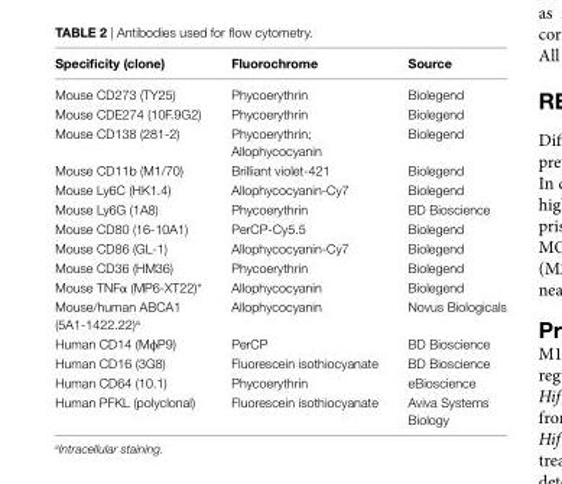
<table><thead><tr><td>specificity (clone)</td><td>Fluorochrome</td><td>source</td></tr></thead><tbody><tr><td>Mouse CD273 (TY25)</td><td>Phycoerythrin</td><td>Biolegend</td></tr><tr><td>Mouse CDE274 (10F.9G2)</td><td>Phycoerythrin</td><td>Biolegend</td></tr><tr><td>Mouse CD138 (281-2)</td><td>Phycoerythrin; Allophycocyanin</td><td>Biolegend</td></tr><tr><td>Mouse CD11b (M1/70)</td><td>Brilliant violet-421</td><td>Biolegend</td></tr><tr><td>Mouse Ly6C (HK1.4)</td><td>Allophycocyanin-Cy7</td><td>Biolegend</td></tr><tr><td>Mouse Ly6G (1A8)</td><td>Phycoerythrin</td><td>BD Bioscience</td></tr><tr><td>Mouse CD80 (16-10A1)</td><td>PerCP-Cy5.5</td><td>Biolegend</td></tr><tr><td>Mouse CD86 (GL-1)</td><td>Allophycocyanin-Cy7</td><td>Biolegend</td></tr><tr><td>Mouse CD36 (HM36)</td><td>Phycoerythrin</td><td>Biolegend</td></tr><tr><td>Mouse TNFα (MP6-XT22)*</td><td>Allophycocyanin</td><td>Biolegend</td></tr><tr><td>Mouse/human ABCA1 (5A1-1422.22)<sup>a</sup></td><td>Allophycocyanin</td><td>Novus Biologicals</td></tr><tr><td>Human CD14 (MϕP9)</td><td>PerCP</td><td>BD Bioscience</td></tr><tr><td>Human CD16 (3G8)</td><td>Fluorescein isothiocyanate</td><td>BD Bioscience</td></tr><tr><td>Human CD64 (10.1)</td><td>Phycoerythrin</td><td>eBioscience</td></tr><tr><td>Human PFKL (polyclonal)</td><td>Fluorescein isothiocyanate</td><td>Aviva Systems Biology</td></tr></tbody></table>